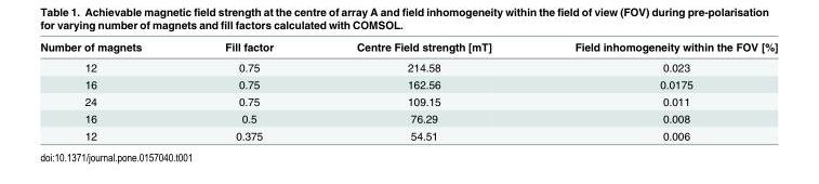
<table><thead><tr><td>Number of magnets</td><td>Fill factor</td><td>Centre Field strength [mT]</td><td>Field inhomogeneity within the FOV [%]</td></tr></thead><tbody><tr><td>12</td><td>0.75</td><td>214.58</td><td>0.023</td></tr><tr><td>16</td><td>0.75</td><td>162.56</td><td>0.0175</td></tr><tr><td>24</td><td>0.75</td><td>109.15</td><td>0.011</td></tr><tr><td>16</td><td>0.5</td><td>76.29</td><td>0.008</td></tr><tr><td>12</td><td>0.375</td><td>54.51</td><td>0.006</td></tr></tbody></table>